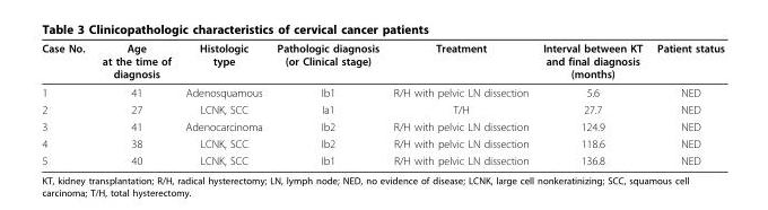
<table><thead><tr><td>Case No.</td><td>Age at the time of diagnosis</td><td>Histologic type</td><td>Pathologic diagnosis (or Clinical stage)</td><td>Treatment</td><td>Interval between KT and final diagnosis (months)</td><td>Patient status</td></tr></thead><tbody><tr><td>1</td><td>41</td><td>Adenosquamous</td><td>Ib1</td><td>R/H with pelvic LN dissection</td><td>5.6</td><td>NED</td></tr><tr><td>2</td><td>27</td><td>LCNK, SCC</td><td>Ia1</td><td>T/H</td><td>27.7</td><td>NED</td></tr><tr><td>3</td><td>41</td><td>Adenocarcinoma</td><td>Ib2</td><td>R/H with pelvic LN dissection</td><td>124.9</td><td>NED</td></tr><tr><td>4</td><td>38</td><td>LCNK, SCC</td><td>Ib2</td><td>R/H with pelvic LN dissection</td><td>118.6</td><td>NED</td></tr><tr><td>5</td><td>40</td><td>LCNK, SCC</td><td>Ib1</td><td>R/H with pelvic LN dissection</td><td>136.8</td><td>NED</td></tr></tbody></table>